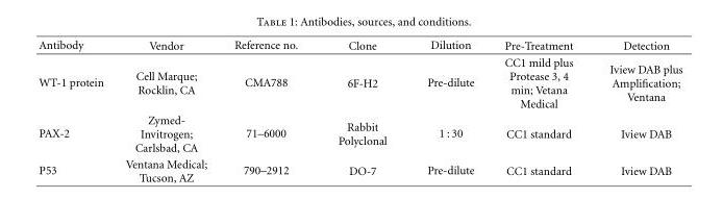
<table><thead><tr><td>Antibody</td><td>Vendor</td><td>Reference no.</td><td>Clone</td><td>Dilution</td><td>Pre-Treatment</td><td>Detection</td></tr></thead><tbody><tr><td>WT-1 protein</td><td>Cell Marque; Rocklin, CA</td><td>CMA788</td><td>6F-H2</td><td>Pre-dilute</td><td>CC1 mild plus Protease 3, 4 min; Vetana Medical</td><td>Iview DAB plus Amplification; Ventana</td></tr><tr><td>PAX-2</td><td>Zymed- Invitrogen; Carlsbad, CA</td><td>71–6000</td><td>Rabbit Polyclonal</td><td>1 : 30</td><td>CC1 standard</td><td>Iview DAB</td></tr><tr><td>P53</td><td>Ventana Medical; Tucson, AZ</td><td>790–2912</td><td>DO-7</td><td>Pre-dilute</td><td>CC1 standard</td><td>Iview DAB</td></tr></tbody></table>